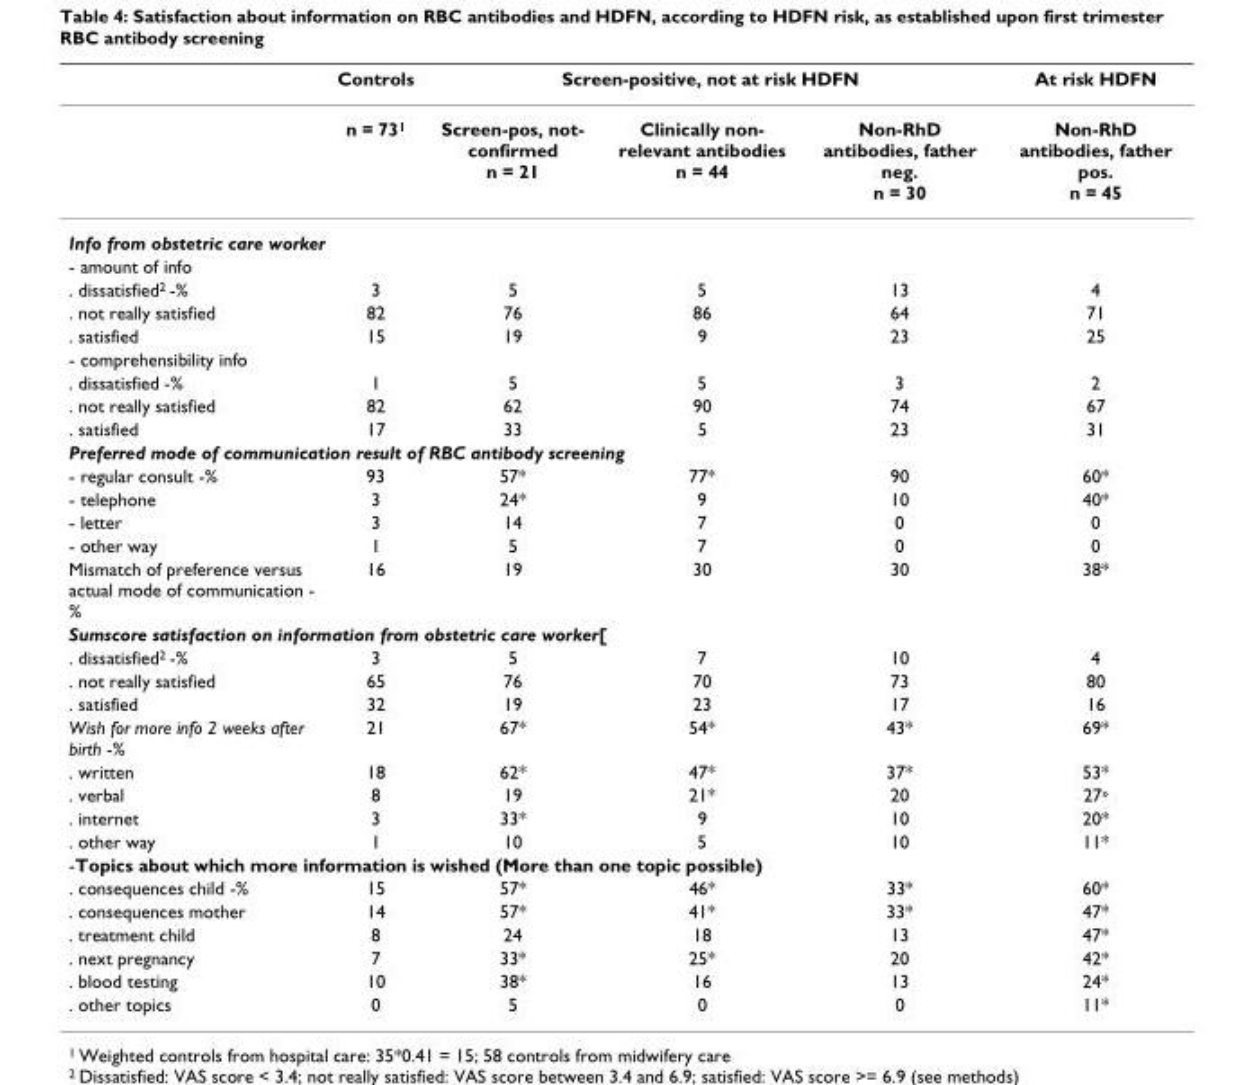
<table><thead><tr><td rowspan="2"></td><td rowspan="2">Controls n = 731</td><td colspan="3">Screen-positive, not at risk HDFN</td><td rowspan="2">At risk HDFN Non-RhD antibodies, father pos. n = 45</td></tr><tr><td>Screen-pos, not- confirmed n = 21</td><td>Clinically non- relevant antibodies n = 44</td><td>Non-RhD antibodies, father neg. n = 30</td></tr></thead><tbody><tr><td colspan="6">Info from obstetric care worker</td></tr><tr><td colspan="6">- amount of info</td></tr><tr><td>. dissatisfied<sup>2</sup> -%</td><td>3</td><td>5</td><td>5</td><td>13</td><td>4</td></tr><tr><td>. not really satisfied</td><td>82</td><td>76</td><td>86</td><td>64</td><td>71</td></tr><tr><td>. satisfied</td><td>15</td><td>19</td><td>9</td><td>23</td><td>25</td></tr><tr><td colspan="6">- comprehensibility info</td></tr><tr><td>. dissatisfied -%</td><td>1</td><td>5</td><td>5</td><td>3</td><td>2</td></tr><tr><td>. not really satisfied</td><td>82</td><td>62</td><td>90</td><td>74</td><td>67</td></tr><tr><td>. satisfied</td><td>17</td><td>33</td><td>5</td><td>23</td><td>31</td></tr><tr><td colspan="6">Preferred mode of communication result of RBC antibody screening</td></tr><tr><td>- regular consult -%</td><td>93</td><td>57*</td><td>77*</td><td>90</td><td>60*</td></tr><tr><td>- telephone</td><td>3</td><td>24*</td><td>9</td><td>10</td><td>40*</td></tr><tr><td>- letter</td><td>3</td><td>14</td><td>7</td><td>0</td><td>0</td></tr><tr><td>- other way</td><td>1</td><td>5</td><td>7</td><td>0</td><td>0</td></tr><tr><td>Mismatch of preference versus actual mode of communication - %</td><td>16</td><td>19</td><td>30</td><td>30</td><td>38*</td></tr><tr><td colspan="6">Sumscore satisfaction on information from obstetric care worker[</td></tr><tr><td>. dissatisfied<sup>2</sup> -%</td><td>3</td><td>5</td><td>7</td><td>10</td><td>4</td></tr><tr><td>. not really satisfied</td><td>65</td><td>76</td><td>70</td><td>73</td><td>80</td></tr><tr><td>. satisfied</td><td>32</td><td>19</td><td>23</td><td>17</td><td>16</td></tr><tr><td>Wish for more info 2 weeks after birth -%</td><td>21</td><td>67*</td><td>54*</td><td>43*</td><td>69*</td></tr><tr><td>. written</td><td>18</td><td>62*</td><td>47*</td><td>37*</td><td>53*</td></tr><tr><td>. verbal</td><td>8</td><td>19</td><td>21*</td><td>20</td><td>27<sup>»</sup></td></tr><tr><td>. internet</td><td>3</td><td>33*</td><td>9</td><td>10</td><td>20*</td></tr><tr><td>. other way</td><td>1</td><td>10</td><td>5</td><td>10</td><td>11*</td></tr><tr><td colspan="6">-Topics about which more information is wished (More than one topic possible)</td></tr><tr><td>. consequences child -%</td><td>15</td><td>57*</td><td>46*</td><td>33*</td><td>60*</td></tr><tr><td>. consequences mother</td><td>14</td><td>57*</td><td>41*</td><td>33*</td><td>47*</td></tr><tr><td>. treatment child</td><td>8</td><td>24</td><td>18</td><td>13</td><td>47*</td></tr><tr><td>. next pregnancy</td><td>7</td><td>33*</td><td>25*</td><td>20</td><td>42*</td></tr><tr><td>. blood testing</td><td>10</td><td>38*</td><td>16</td><td>13</td><td>24*</td></tr><tr><td>. other topics</td><td>0</td><td>5</td><td>0</td><td>0</td><td>11*</td></tr></tbody></table>